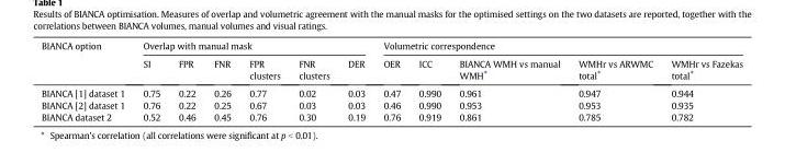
<table><thead><tr><td rowspan="2">BIANCA option</td><td colspan="6">Overlap with manual mask</td><td colspan="5">Volumetric correspondence</td></tr><tr><td>SI</td><td>FPR</td><td>FNR</td><td>FPR clusters</td><td>FNR clusters</td><td>DER</td><td>OER</td><td>ICC</td><td>BIANCA WMH vs manual WMH⁎</td><td>WMHr vs ARWMC total⁎</td><td>WMHr vs Fazekas total⁎</td></tr></thead><tbody><tr><td>BIANCA [1] dataset 1</td><td>0.75</td><td>0.22</td><td>0.26</td><td>0.77</td><td>0.02</td><td>0.03</td><td>0.47</td><td>0.990</td><td>0.961</td><td>0.947</td><td>0.944</td></tr><tr><td>BIANCA [2] dataset 1</td><td>0.76</td><td>0.22</td><td>0.25</td><td>0.67</td><td>0.03</td><td>0.03</td><td>0.46</td><td>0.990</td><td>0.953</td><td>0.953</td><td>0.935</td></tr><tr><td>BIANCA dataset 2</td><td>0.52</td><td>0.46</td><td>0.45</td><td>0.76</td><td>0.30</td><td>0.19</td><td>0.76</td><td>0.919</td><td>0.861</td><td>0.785</td><td>0.782</td></tr></tbody></table>